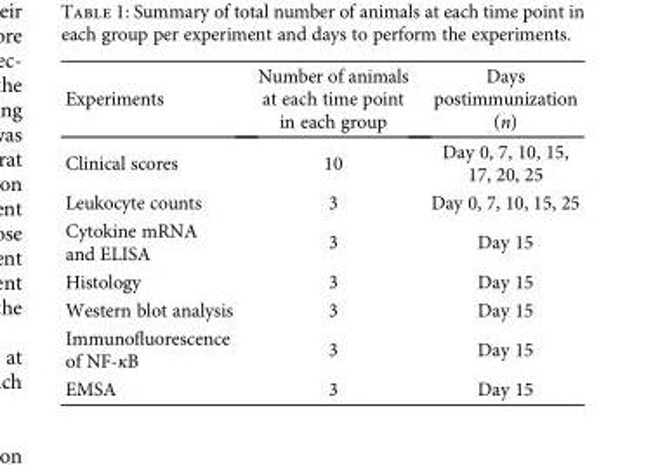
<table><thead><tr><td>Experiments</td><td>Number of animals at each time point in each group</td><td>Days postimmunization (n)</td></tr></thead><tbody><tr><td>Clinical scores</td><td>10</td><td>Day 0, 7, 10, 15, 17, 20, 25</td></tr><tr><td>Leukocyte counts</td><td>3</td><td>Day 0, 7, 10, 15, 25</td></tr><tr><td>Cytokine mRNA and ELISA</td><td>3</td><td>Day 15</td></tr><tr><td>Histology</td><td>3</td><td>Day 15</td></tr><tr><td>Western blot analysis</td><td>3</td><td>Day 15</td></tr><tr><td>Immunofluorescence of NF-κB</td><td>3</td><td>Day 15</td></tr><tr><td>EMSA</td><td>3</td><td>Day 15</td></tr></tbody></table>